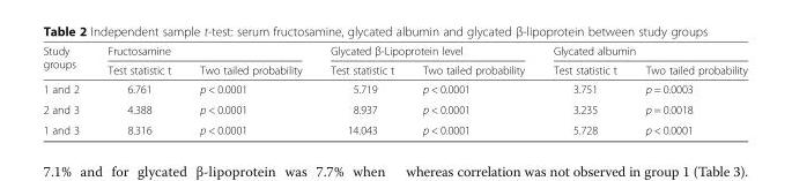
<table><thead><tr><td rowspan="2">Study groups</td><td colspan="2">Fructosamine</td><td colspan="2">Glycated β-Lipoprotein level</td><td colspan="2">Glycated albumin</td></tr><tr><td>Test statistic t</td><td>Two tailed probability</td><td>Test statistic t</td><td>Two tailed probability</td><td>Test statistic t</td><td>Two tailed probability</td></tr></thead><tbody><tr><td>1 and 2</td><td>6.761</td><td>p &lt; 0.0001</td><td>5.719</td><td>p &lt; 0.0001</td><td>3.751</td><td>p = 0.0003</td></tr><tr><td>2 and 3</td><td>4.388</td><td>p &lt; 0.0001</td><td>8.937</td><td>p &lt; 0.0001</td><td>3.235</td><td>p = 0.0018</td></tr><tr><td>1 and 3</td><td>8.316</td><td>p &lt; 0.0001</td><td>14.043</td><td>p &lt; 0.0001</td><td>5.728</td><td>p &lt; 0.0001</td></tr></tbody></table>